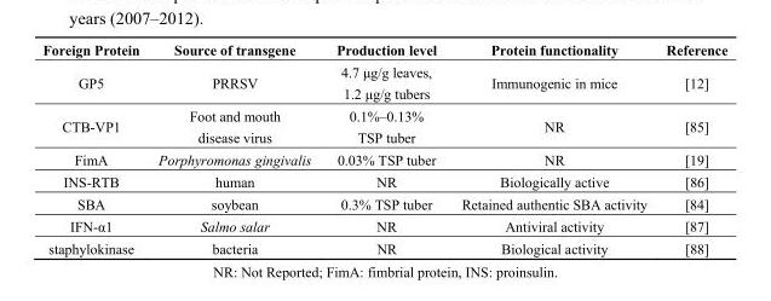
<table><thead><tr><td>Foreign Protein</td><td>Source of transgene</td><td>Production level</td><td>Protein functionality</td><td>Reference</td></tr></thead><tbody><tr><td>GP5</td><td>PRRSV</td><td>4.7 μg/g leaves, 1.2 μg/g tubers</td><td>Immunogenic in mice</td><td>[12]</td></tr><tr><td>CTB-VP1</td><td>Foot and mouth disease virus</td><td>0.1%–0.13% TSP tuber</td><td>NR</td><td>[85]</td></tr><tr><td>FimA</td><td>Porphyromonas gingivalis</td><td>0.03% TSP tuber</td><td>NR</td><td>[19]</td></tr><tr><td>INS-RTB</td><td>human</td><td>NR</td><td>Biologically active</td><td>[86]</td></tr><tr><td>SBA</td><td>soybean</td><td>0.3% TSP tuber</td><td>Retained authentic SBA activity</td><td>[84]</td></tr><tr><td>IFN-α1</td><td>Salmo salar</td><td>NR</td><td>Antiviral activity</td><td>[87]</td></tr><tr><td>staphylokinase</td><td>bacteria</td><td>NR</td><td>Biological activity</td><td>[88]</td></tr></tbody></table>